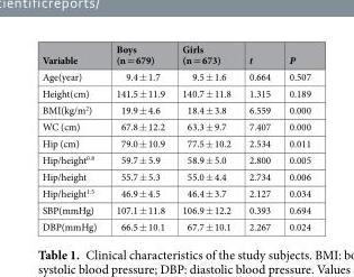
<table><thead><tr><td>Variable</td><td>Boys (n = 679)</td><td>Girls (n = 673)</td><td>t</td><td>P</td></tr></thead><tbody><tr><td>Age(year)</td><td>9.4 ± 1.7</td><td>9.5 ± 1.6</td><td>0.664</td><td>0.507</td></tr><tr><td>Height(cm)</td><td>141.5 ± 11.9</td><td>140.7 ± 11.8</td><td>1.315</td><td>0.189</td></tr><tr><td>BMI(kg/m<sup>2</sup>)</td><td>19.9 ± 4.6</td><td>18.4 ± 3.8</td><td>6.559</td><td>0.000</td></tr><tr><td>WC (cm)</td><td>67.8 ± 12.2</td><td>63.3 ± 9.7</td><td>7.407</td><td>0.000</td></tr><tr><td>Hip (cm)</td><td>79.0 ± 10.9</td><td>77.5 ± 10.2</td><td>2.534</td><td>0.011</td></tr><tr><td>Hip/height<sup>0.8</sup></td><td>59.7 ± 5.9</td><td>58.9 ± 5.0</td><td>2.800</td><td>0.005</td></tr><tr><td>Hip/height</td><td>55.7 ± 5.3</td><td>55.0 ± 4.4</td><td>2.734</td><td>0.006</td></tr><tr><td>Hip/height<sup>1.5</sup></td><td>46.9 ± 4.5</td><td>46.4 ± 3.7</td><td>2.127</td><td>0.034</td></tr><tr><td>SBP(mmHg)</td><td>107.1 ± 11.8</td><td>106.9 ± 12.2</td><td>0.393</td><td>0.694</td></tr><tr><td>DBP(mmHg)</td><td>66.5 ± 10.1</td><td>67.7 ± 10.1</td><td>2.267</td><td>0.024</td></tr></tbody></table>